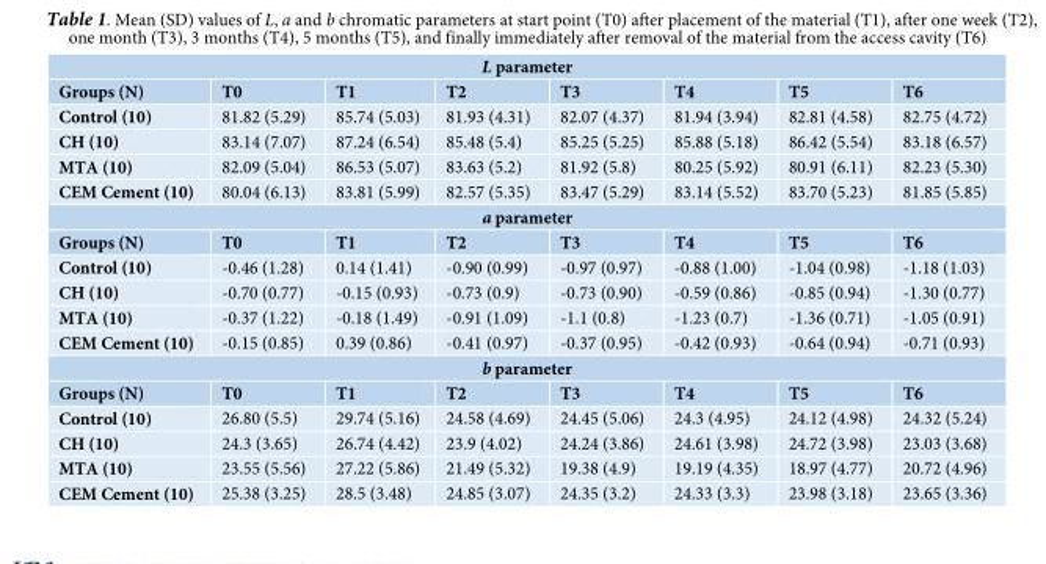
<table><thead><tr><td colspan="8">L parameter</td></tr><tr><td>Groups (N)</td><td>T0</td><td>T1</td><td>T2</td><td>T3</td><td>T4</td><td>T5</td><td>T6</td></tr></thead><tbody><tr><td>Control (10)</td><td>81.82 (5.29)</td><td>85.74 (5.03)</td><td>81.93 (4.31)</td><td>82.07 (4.37)</td><td>81.94 (3.94)</td><td>82.81 (4.58)</td><td>82.75 (4.72)</td></tr><tr><td>CH (10)</td><td>83.14 (7.07)</td><td>87.24 (6.54)</td><td>85.48 (5.4)</td><td>85.25 (5.25)</td><td>85.88 (5.18)</td><td>86.42 (5.54)</td><td>83.18 (6.57)</td></tr><tr><td>MTA (10)</td><td>82.09 (5.04)</td><td>86.53 (5.07)</td><td>83.63 (5.2)</td><td>81.92 (5.8)</td><td>80.25 (5.92)</td><td>80.91 (6.11)</td><td>82.23 (5.30)</td></tr><tr><td>CEM Cement (10)</td><td>80.04 (6.13)</td><td>83.81 (5.99)</td><td>82.57 (5.35)</td><td>83.47 (5.29)</td><td>83.14 (5.52)</td><td>83.70 (5.23)</td><td>81.85 (5.85)</td></tr><tr><td colspan="8">a parameter</td></tr><tr><td>Groups (N)</td><td>T0</td><td>T1</td><td>T2</td><td>T3</td><td>T4</td><td>T5</td><td>T6</td></tr><tr><td>Control (10)</td><td>-0.46 (1.28)</td><td>0.14 (1.41)</td><td>-0.90 (0.99)</td><td>-0.97 (0.97)</td><td>-0.88 (1.00)</td><td>-1.04 (0.98)</td><td>-1.18 (1.03)</td></tr><tr><td>CH (10)</td><td>-0.70 (0.77)</td><td>-0.15 (0.93)</td><td>-0.73 (0.9)</td><td>-0.73 (0.90)</td><td>-0.59 (0.86)</td><td>-0.85 (0.94)</td><td>-1.30 (0.77)</td></tr><tr><td>MTA (10)</td><td>-0.37 (1.22)</td><td>-0.18 (1.49)</td><td>-0.91 (1.09)</td><td>-1.1 (0.8)</td><td>-1.23 (0.7)</td><td>-1.36 (0.71)</td><td>-1.05 (0.91)</td></tr><tr><td>CEM Cement (10)</td><td>-0.15 (0.85)</td><td>0.39 (0.86)</td><td>-0.41 (0.97)</td><td>-0.37 (0.95)</td><td>-0.42 (0.93)</td><td>-0.64 (0.94)</td><td>-0.71 (0.93)</td></tr><tr><td colspan="8">b parameter</td></tr><tr><td>Groups (N)</td><td>T0</td><td>T1</td><td>T2</td><td>T3</td><td>T4</td><td>T5</td><td>T6</td></tr><tr><td>Control (10)</td><td>26.80 (5.5)</td><td>29.74 (5.16)</td><td>24.58 (4.69)</td><td>24.45 (5.06)</td><td>24.3 (4.95)</td><td>24.12 (4.98)</td><td>24.32 (5.24)</td></tr><tr><td>CH (10)</td><td>24.3 (3.65)</td><td>26.74 (4.42)</td><td>23.9 (4.02)</td><td>24.24 (3.86)</td><td>24.61 (3.98)</td><td>24.72 (3.98)</td><td>23.03 (3.68)</td></tr><tr><td>MTA (10)</td><td>23.55 (5.56)</td><td>27.22 (5.86)</td><td>21.49 (5.32)</td><td>19.38 (4.9)</td><td>19.19 (4.35)</td><td>18.97 (4.77)</td><td>20.72 (4.96)</td></tr><tr><td>CEM Cement (10)</td><td>25.38 (3.25)</td><td>28.5 (3.48)</td><td>24.85 (3.07)</td><td>24.35 (3.2)</td><td>24.33 (3.3)</td><td>23.98 (3.18)</td><td>23.65 (3.36)</td></tr></tbody></table>